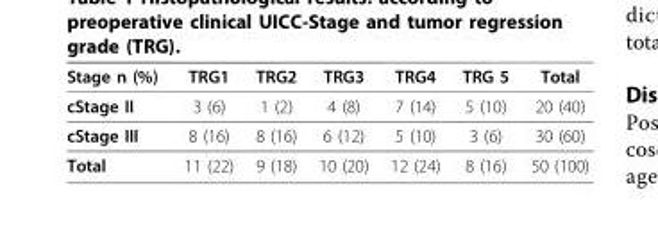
<table><thead><tr><td>Stage n (%)</td><td>TRG1</td><td>TRG2</td><td>TRG3</td><td>TRG4</td><td>TRG 5</td><td>Total</td></tr></thead><tbody><tr><td>cStage II</td><td>3 (6)</td><td>1 (2)</td><td>4 (8)</td><td>7 (14)</td><td>5 (10)</td><td>20 (40)</td></tr><tr><td>cStage III</td><td>8 (16)</td><td>8 (16)</td><td>6 (12)</td><td>5 (10)</td><td>3 (6)</td><td>30 (60)</td></tr><tr><td>Total</td><td>11 (22)</td><td>9 (18)</td><td>10 (20)</td><td>12 (24)</td><td>8 (16)</td><td>50 (100)</td></tr></tbody></table>